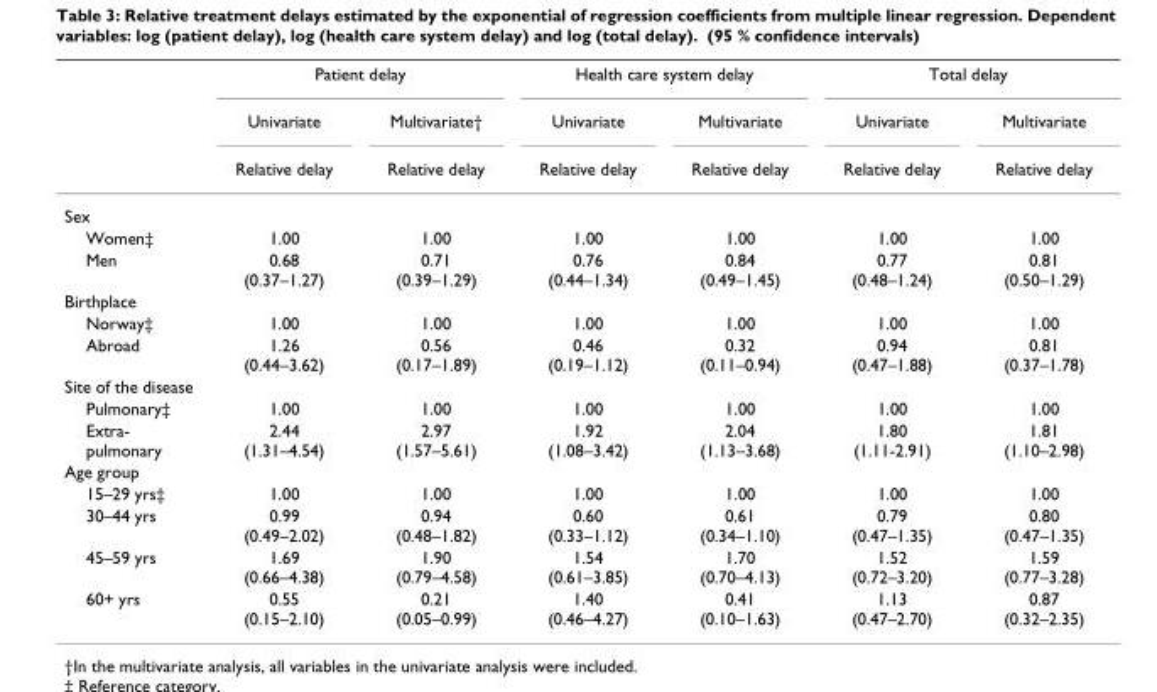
<table><thead><tr><td rowspan="3"></td><td colspan="2">Patient delay</td><td colspan="2">Health care system delay</td><td colspan="2">Total delay</td></tr><tr><td rowspan="2">Univariate Relative delay</td><td rowspan="2">Multivariate† Relative delay</td><td rowspan="2">Univariate Relative delay</td><td rowspan="2">Multivariate Relative delay</td><td rowspan="2">Univariate Relative delay</td><td rowspan="2">Multivariate Relative delay</td></tr><tr></tr></thead><tbody><tr><td colspan="7">Sex</td></tr><tr><td>Women‡</td><td>1.00</td><td>1.00</td><td>1.00</td><td>1.00</td><td>1.00</td><td>1.00</td></tr><tr><td>Men</td><td>0.68 (0.37–1.27)</td><td>0.71 (0.39–1.29)</td><td>0.76 (0.44–1.34)</td><td>0.84 (0.49–1.45)</td><td>0.77 (0.48–1.24)</td><td>0.81 (0.50–1.29)</td></tr><tr><td colspan="7">Birthplace</td></tr><tr><td>Norway‡</td><td>1.00</td><td>1.00</td><td>1.00</td><td>1.00</td><td>1.00</td><td>1.00</td></tr><tr><td>Abroad</td><td>1.26 (0.44–3.62)</td><td>0.56 (0.17–1.89)</td><td>0.46 (0.19–1.12)</td><td>0.32 (0.11–0.94)</td><td>0.94 (0.47–1.88)</td><td>0.81 (0.37–1.78)</td></tr><tr><td colspan="7">Site of the disease</td></tr><tr><td>Pulmonary‡</td><td>1.00</td><td>1.00</td><td>1.00</td><td>1.00</td><td>1.00</td><td>1.00</td></tr><tr><td>Extra- pulmonary</td><td>2.44 (1.31–4.54)</td><td>2.97 (1.57–5.61)</td><td>1.92 (1.08–3.42)</td><td>2.04 (1.13–3.68)</td><td>1.80 (1.11-2.91)</td><td>1.81 (1.10–2.98)</td></tr><tr><td colspan="7">Age group</td></tr><tr><td>15–29 yrs‡</td><td>1.00</td><td>1.00</td><td>1.00</td><td>1.00</td><td>1.00</td><td>1.00</td></tr><tr><td>30–44 yrs</td><td>0.99 (0.49–2.02)</td><td>0.94 (0.48–1.82)</td><td>0.60 (0.33–1.12)</td><td>0.61 (0.34–1.10)</td><td>0.79 (0.47–1.35)</td><td>0.80 (0.47–1.35)</td></tr><tr><td>45–59 yrs</td><td>1.69 (0.66–4.38)</td><td>1.90 (0.79–4.58)</td><td>1.54 (0.61–3.85)</td><td>1.70 (0.70–4.13)</td><td>1.52 (0.72–3.20)</td><td>1.59 (0.77–3.28)</td></tr><tr><td>60+ yrs</td><td>0.55 (0.15–2.10)</td><td>0.21 (0.05–0.99)</td><td>1.40 (0.46–4.27)</td><td>0.41 (0.10–1.63)</td><td>1.13 (0.47–2.70)</td><td>0.87 (0.32–2.35)</td></tr></tbody></table>